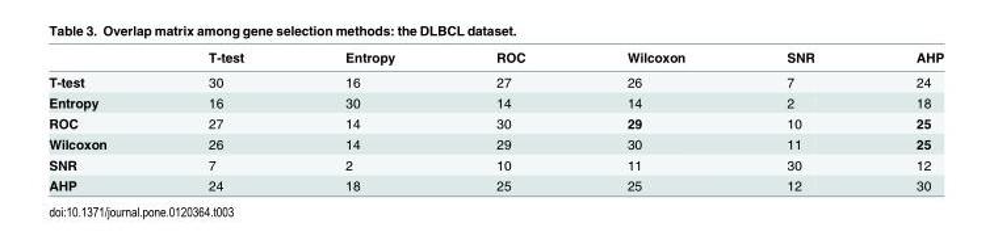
<table><thead><tr><td></td><td>T-test</td><td>Entropy</td><td>ROC</td><td>Wilcoxon</td><td>SNR</td><td>AHP</td></tr></thead><tbody><tr><td>T-test</td><td>30</td><td>16</td><td>27</td><td>26</td><td>7</td><td>24</td></tr><tr><td>Entropy</td><td>16</td><td>30</td><td>14</td><td>14</td><td>2</td><td>18</td></tr><tr><td>ROC</td><td>27</td><td>14</td><td>30</td><td>29</td><td>10</td><td>25</td></tr><tr><td>Wilcoxon</td><td>26</td><td>14</td><td>29</td><td>30</td><td>11</td><td>25</td></tr><tr><td>SNR</td><td>7</td><td>2</td><td>10</td><td>11</td><td>30</td><td>12</td></tr><tr><td>AHP</td><td>24</td><td>18</td><td>25</td><td>25</td><td>12</td><td>30</td></tr></tbody></table>